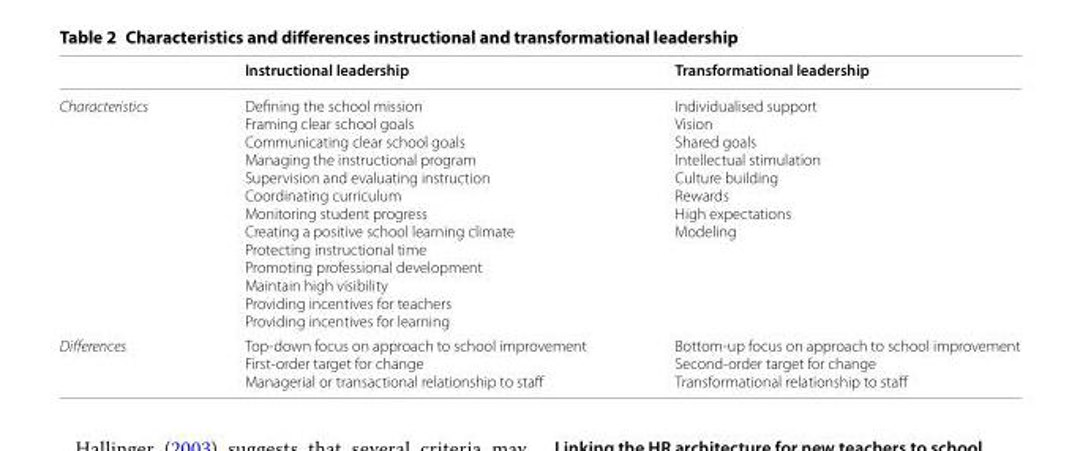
<table><thead><tr><td></td><td>Instructional leadership</td><td>Transformational leadership</td></tr></thead><tbody><tr><td>Characteristics</td><td>Defining the school mission Framing clear school goals Communicating clear school goals Managing the instructional program Supervision and evaluating instruction Coordinating curriculum Monitoring student progress Creating a positive school learning climate Protecting instructional time Promoting professional development Maintain high visibility Providing incentives for teachers Providing incentives for learning</td><td>Individualised support Vision Shared goals Intellectual stimulation Culture building Rewards High expectations Modeling</td></tr><tr><td>Differences</td><td>Top-down focus on approach to school improvement First-order target for change Managerial or transactional relationship to staff</td><td>Bottom-up focus on approach to school improvement Second-order target for change Transformational relationship to staff</td></tr></tbody></table>